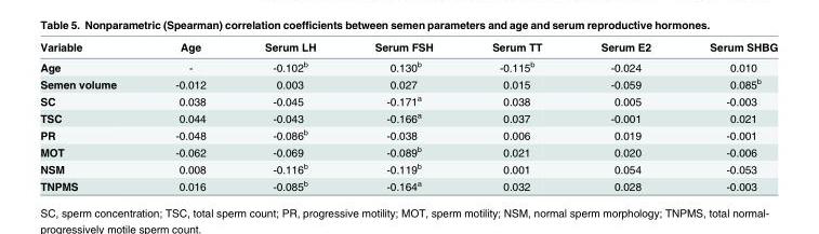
<table><thead><tr><td>Variable</td><td>Age</td><td>Serum LH</td><td>Serum FSH</td><td>Serum TT</td><td>Serum E2</td><td>Serum SHBG</td></tr></thead><tbody><tr><td>Age</td><td>-</td><td>-0.102<sup>b</sup></td><td>0.130<sup>b</sup></td><td>-0.115<sup>b</sup></td><td>-0.024</td><td>0.010</td></tr><tr><td>Semen volume</td><td>-0.012</td><td>0.003</td><td>0.027</td><td>0.015</td><td>-0.059</td><td>0.085<sup>b</sup></td></tr><tr><td>SC</td><td>0.038</td><td>-0.045</td><td>-0.171<sup>a</sup></td><td>0.038</td><td>0.005</td><td>-0.003</td></tr><tr><td>TSC</td><td>0.044</td><td>-0.043</td><td>-0.166<sup>a</sup></td><td>0.037</td><td>-0.001</td><td>0.021</td></tr><tr><td>PR</td><td>-0.048</td><td>-0.086<sup>b</sup></td><td>-0.038</td><td>0.006</td><td>0.019</td><td>-0.001</td></tr><tr><td>MOT</td><td>-0.062</td><td>-0.069</td><td>-0.089<sup>b</sup></td><td>0.021</td><td>0.020</td><td>-0.006</td></tr><tr><td>NSM</td><td>0.008</td><td>-0.116<sup>b</sup></td><td>-0.119<sup>b</sup></td><td>0.001</td><td>0.054</td><td>-0.053</td></tr><tr><td>TNPMS</td><td>0.016</td><td>-0.085<sup>b</sup></td><td>-0.164<sup>a</sup></td><td>0.032</td><td>0.028</td><td>-0.003</td></tr></tbody></table>